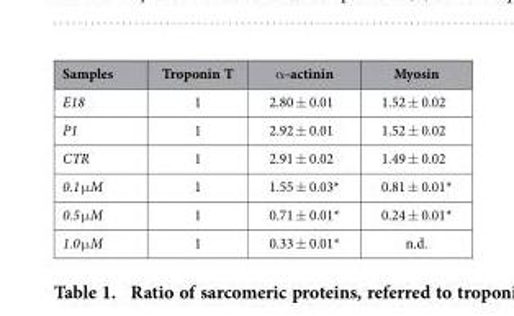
<table><thead><tr><td>Samples</td><td>Troponin T</td><td>α -actinin</td><td>Myosin</td></tr></thead><tbody><tr><td>E18</td><td>1</td><td>2.80 ± 0.01</td><td>1.52 ± 0.02</td></tr><tr><td>P1</td><td>1</td><td>2.92 ± 0.01</td><td>1.52 ± 0.02</td></tr><tr><td>CTR</td><td>1</td><td>2.91 ± 0.02</td><td>1.49 ± 0.02</td></tr><tr><td>0.1 μ M</td><td>1</td><td>1.55 ± 0.03*</td><td>0.81 ± 0.01*</td></tr><tr><td>0.5 μ M</td><td>1</td><td>0.71 ± 0.01*</td><td>0.24 ± 0.01*</td></tr><tr><td>1.0 μ M</td><td>1</td><td>0.33 ± 0.01*</td><td>n.d.</td></tr></tbody></table>